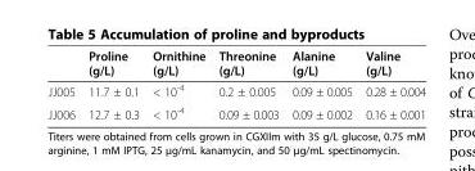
<table><thead><tr><td></td><td>Proline (g/L)</td><td>Ornithine (g/L)</td><td>Threonine (g/L)</td><td>Alanine (g/L)</td><td>Valine (g/L)</td></tr></thead><tbody><tr><td>JJ005</td><td>11.7 ± 0.1</td><td>&lt; 10<sup>-4</sup></td><td>0.2 ± 0.005</td><td>0.09 ± 0.005</td><td>0.28 ± 0.004</td></tr><tr><td>JJ006</td><td>12.7 ± 0.3</td><td>&lt; 10<sup>-4</sup></td><td>0.09 ± 0.003</td><td>0.09 ± 0.002</td><td>0.16 ± 0.001</td></tr></tbody></table>